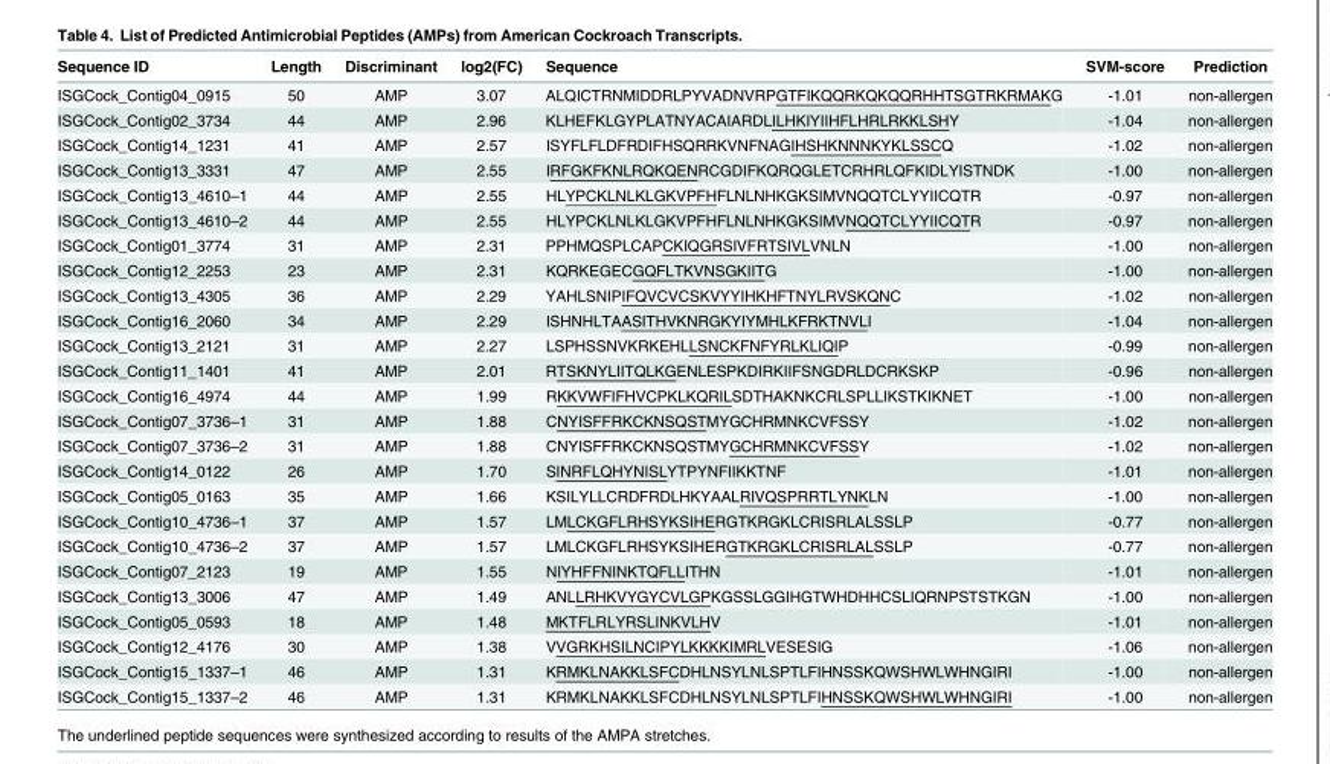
<table><thead><tr><td>Sequence ID</td><td>Length</td><td>Discriminant</td><td>log2(FC)</td><td>Sequence</td><td>SVM-score</td><td>Prediction</td></tr></thead><tbody><tr><td>ISGCock_Contig04_0915</td><td>50</td><td>AMP</td><td>3.07</td><td>ALQICTRNMIDDRLPYVADNVRPGTFIKQQRKQKQQRHHTSGTRKRMAKG</td><td>-1.01</td><td>non-allergen</td></tr><tr><td>ISGCock_Contig02_3734</td><td>44</td><td>AMP</td><td>2.96</td><td>KLHEFKLGYPLATNYACAIARDLILHKIYIIHFLHRLRKKLSHY</td><td>-1.04</td><td>non-allergen</td></tr><tr><td>ISGCock_Contig14_1231</td><td>41</td><td>AMP</td><td>2.57</td><td>ISYFLFLDFRDIFHSQRRKVNFNAGIHSHKNNNKYKLSSCQ</td><td>-1.02</td><td>non-allergen</td></tr><tr><td>ISGCock_Contig13_3331</td><td>47</td><td>AMP</td><td>2.55</td><td>IRFGKFKNLRQKQENRCGDIFKQRQGLETCRHRLQFKIDLYISTNDK</td><td>-1.00</td><td>non-allergen</td></tr><tr><td>ISGCock_Contig13_4610–1</td><td>44</td><td>AMP</td><td>2.55</td><td>HLYPCKLNLKLGKVPFHFLNLNHKGKSIMVNQQTCLYYIICQTR</td><td>-0.97</td><td>non-allergen</td></tr><tr><td>ISGCock_Contig13_4610–2</td><td>44</td><td>AMP</td><td>2.55</td><td>HLYPCKLNLKLGKVPFHFLNLNHKGKSIMVNQQTCLYYIICQTR</td><td>-0.97</td><td>non-allergen</td></tr><tr><td>ISGCock_Contig01_3774</td><td>31</td><td>AMP</td><td>2.31</td><td>PPHMQSPLCAPCKIQGRSIVFRTSIVLVNLN</td><td>-1.00</td><td>non-allergen</td></tr><tr><td>ISGCock_Contig12_2253</td><td>23</td><td>AMP</td><td>2.31</td><td>KQRKEGECGQFLTKVNSGKIITG</td><td>-1.00</td><td>non-allergen</td></tr><tr><td>ISGCock_Contig13_4305</td><td>36</td><td>AMP</td><td>2.29</td><td>YAHLSNIPIFQVCVCSKVYYIHKHFTNYLRVSKQNC</td><td>-1.02</td><td>non-allergen</td></tr><tr><td>ISGCock_Contig16_2060</td><td>34</td><td>AMP</td><td>2.29</td><td>ISHNHLTAASITHVKNRGKYIYMHLKFRKTNVLI</td><td>-1.04</td><td>non-allergen</td></tr><tr><td>ISGCock_Contig13_2121</td><td>31</td><td>AMP</td><td>2.27</td><td>LSPHSSNVKRKEHLLSNCKFNFYRLKLIQIP</td><td>-0.99</td><td>non-allergen</td></tr><tr><td>ISGCock_Contig11_1401</td><td>41</td><td>AMP</td><td>2.01</td><td>RTSKNYLIITQLKGENLESPKDIRKIIFSNGDRLDCRKSKP</td><td>-0.96</td><td>non-allergen</td></tr><tr><td>ISGCock_Contig16_4974</td><td>44</td><td>AMP</td><td>1.99</td><td>RKKVWFIFHVCPKLKQRILSDTHAKNKCRLSPLLIKSTKIKNET</td><td>-1.00</td><td>non-allergen</td></tr><tr><td>ISGCock_Contig07_3736–1</td><td>31</td><td>AMP</td><td>1.88</td><td>CNYISFFRKCKNSQSTMYGCHRMNKCVFSSY</td><td>-1.02</td><td>non-allergen</td></tr><tr><td>ISGCock_Contig07_3736–2</td><td>31</td><td>AMP</td><td>1.88</td><td>CNYISFFRKCKNSQSTMYGCHRMNKCVFSSY</td><td>-1.02</td><td>non-allergen</td></tr><tr><td>ISGCock_Contig14_0122</td><td>26</td><td>AMP</td><td>1.70</td><td>SINRFLQHYNISLYTPYNFIIKKTNF</td><td>-1.01</td><td>non-allergen</td></tr><tr><td>ISGCock_Contig05_0163</td><td>35</td><td>AMP</td><td>1.66</td><td>KSILYLLCRDFRDLHKYAALRIVQSPRRTLYNKLN</td><td>-1.00</td><td>non-allergen</td></tr><tr><td>ISGCock_Contig10_4736–1</td><td>37</td><td>AMP</td><td>1.57</td><td>LMLCKGFLRHSYKSIHERGTKRGKLCRISRLALSSLP</td><td>-0.77</td><td>non-allergen</td></tr><tr><td>ISGCock_Contig10_4736–2</td><td>37</td><td>AMP</td><td>1.57</td><td>LMLCKGFLRHSYKSIHERGTKRGKLCRISRLALSSLP</td><td>-0.77</td><td>non-allergen</td></tr><tr><td>ISGCock_Contig07_2123</td><td>19</td><td>AMP</td><td>1.55</td><td>NIYHFFNINKTQFLLITHN</td><td>-1.01</td><td>non-allergen</td></tr><tr><td>ISGCock_Contig13_3006</td><td>47</td><td>AMP</td><td>1.49</td><td>ANLLRHKVYGYCVLGPKGSSLGGIHGTWHDHHCSLIQRNPSTSTKGN</td><td>-1.00</td><td>non-allergen</td></tr><tr><td>ISGCock_Contig05_0593</td><td>18</td><td>AMP</td><td>1.48</td><td>MKTFLRLYRSLINKVLHV</td><td>-1.01</td><td>non-allergen</td></tr><tr><td>ISGCock_Contig12_4176</td><td>30</td><td>AMP</td><td>1.38</td><td>VVGRKHSILNCIPYLKKKKIMRLVESESIG</td><td>-1.06</td><td>non-allergen</td></tr><tr><td>ISGCock_Contig15_1337–1</td><td>46</td><td>AMP</td><td>1.31</td><td>KRMKLNAKKLSFCDHLNSYLNLSPTLFIHNSSKQWSHWLWHNGIRI</td><td>-1.00</td><td>non-allergen</td></tr><tr><td>ISGCock_Contig15_1337–2</td><td>46</td><td>AMP</td><td>1.31</td><td>KRMKLNAKKLSFCDHLNSYLNLSPTLFIHNSSKQWSHWLWHNGIRI</td><td>-1.00</td><td>non-allergen</td></tr></tbody></table>